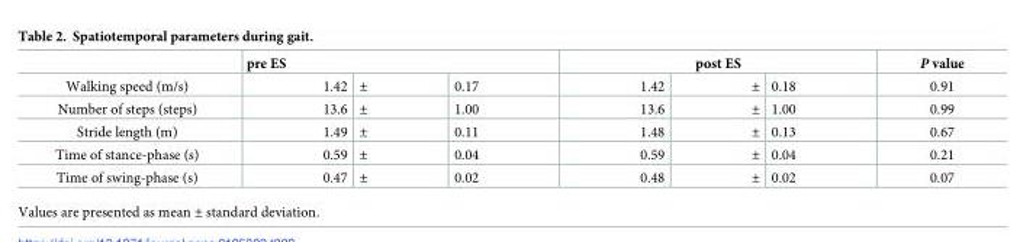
<table><thead><tr><td rowspan="2">Walking speed (m/s)</td><td colspan="3">pre ES</td><td colspan="3">post ES</td><td rowspan="2">P value 0.91</td></tr><tr><td>1.42</td><td>±</td><td>0.17</td><td>1.42</td><td>±</td><td>0.18</td></tr></thead><tbody><tr><td>Number of steps (steps)</td><td>13.6</td><td>±</td><td>1.00</td><td>13.6</td><td>±</td><td>1.00</td><td>0.99</td></tr><tr><td>Stride length (m)</td><td>1.49</td><td>±</td><td>0.11</td><td>1.48</td><td>±</td><td>0.13</td><td>0.67</td></tr><tr><td>Time of stance-phase (s)</td><td>0.59</td><td>±</td><td>0.04</td><td>0.59</td><td>±</td><td>0.04</td><td>0.21</td></tr><tr><td>Time of swing-phase (s)</td><td>0.47</td><td>±</td><td>0.02</td><td>0.48</td><td>±</td><td>0.02</td><td>0.07</td></tr></tbody></table>